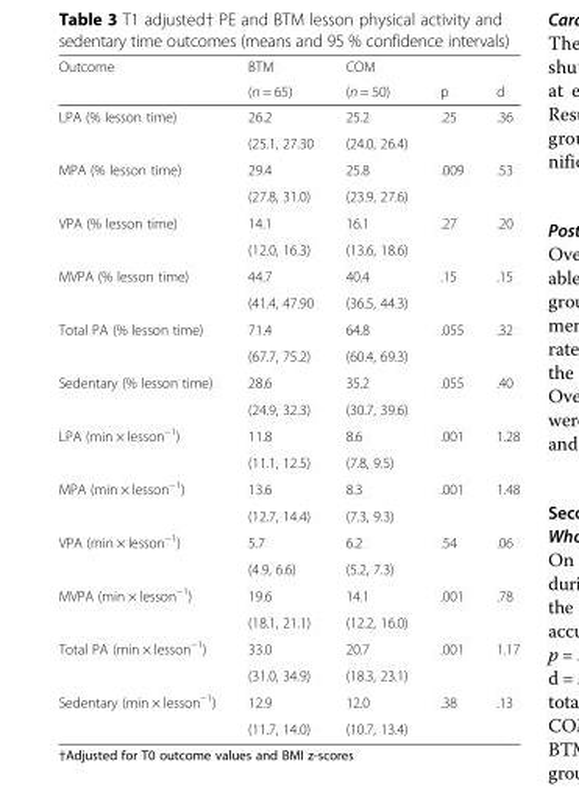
<table><thead><tr><td rowspan="2">Outcome</td><td rowspan="2">BTM (n = 65)</td><td rowspan="2">COM (n = 50)</td><td rowspan="2">p</td><td rowspan="2">d</td></tr><tr></tr></thead><tbody><tr><td rowspan="2">LPA (% lesson time)</td><td>26.2</td><td>25.2</td><td rowspan="2">.25</td><td rowspan="2">.36</td></tr><tr><td>(25.1, 27.30</td><td>(24.0, 26.4)</td></tr><tr><td rowspan="2">MPA (% lesson time)</td><td>29.4</td><td>25.8</td><td rowspan="2">.009</td><td rowspan="2">.53</td></tr><tr><td>(27.8, 31.0)</td><td>(23.9, 27.6)</td></tr><tr><td rowspan="2">VPA (% lesson time)</td><td>14.1</td><td>16.1</td><td rowspan="2">.27</td><td rowspan="2">.20</td></tr><tr><td>(12.0, 16.3)</td><td>(13.6, 18.6)</td></tr><tr><td rowspan="2">MVPA (% lesson time)</td><td>44.7</td><td>40.4</td><td>.15</td><td>.15</td></tr><tr><td>(41.4, 47.90</td><td>(36.5, 44.3)</td><td></td><td></td></tr><tr><td rowspan="2">Total PA (% lesson time)</td><td>71.4</td><td>64.8</td><td rowspan="2">.055</td><td rowspan="2">.32</td></tr><tr><td>(67.7, 75.2)</td><td>(60.4, 69.3)</td></tr><tr><td rowspan="2">Sedentary (% lesson time)</td><td>28.6</td><td>35.2</td><td rowspan="2">.055</td><td rowspan="2">.40</td></tr><tr><td>(24.9, 32.3)</td><td>(30.7, 39.6)</td></tr><tr><td rowspan="2">LPA (min × lesson<sup>−1</sup>)</td><td>11.8</td><td>8.6</td><td rowspan="2">.001</td><td rowspan="2">1.28</td></tr><tr><td>(11.1, 12.5)</td><td>(7.8, 9.5)</td></tr><tr><td rowspan="2">MPA (min × lesson<sup>−1</sup>)</td><td>13.6</td><td>8.3</td><td rowspan="2">.001</td><td rowspan="2">1.48</td></tr><tr><td>(12.7, 14.4)</td><td>(7.3, 9.3)</td></tr><tr><td rowspan="2">VPA (min × lesson<sup>−1</sup>)</td><td>5.7</td><td>6.2</td><td rowspan="2">.54</td><td rowspan="2">.06</td></tr><tr><td>(4.9, 6.6)</td><td>(5.2, 7.3)</td></tr><tr><td rowspan="2">MVPA (min × lesson<sup>−1</sup>)</td><td>19.6</td><td>14.1</td><td rowspan="2">.001</td><td rowspan="2">.78</td></tr><tr><td>(18.1, 21.1)</td><td>(12.2, 16.0)</td></tr><tr><td rowspan="2">Total PA (min × lesson<sup>−1</sup>)</td><td>33.0</td><td>20.7</td><td rowspan="2">.001</td><td rowspan="2">1.17</td></tr><tr><td>(31.0, 34.9)</td><td>(18.3, 23.1)</td></tr><tr><td rowspan="2">Sedentary (min × lesson<sup>−1</sup>)</td><td>12.9</td><td>12.0</td><td rowspan="2">.38</td><td rowspan="2">.13</td></tr><tr><td>(11.7, 14.0)</td><td>(10.7, 13.4)</td></tr></tbody></table>